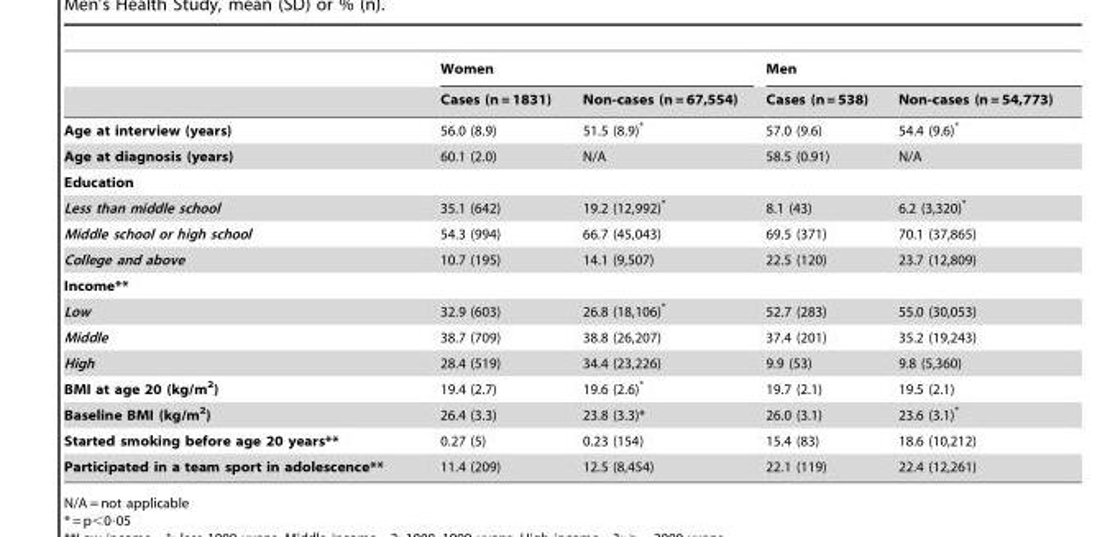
<table><thead><tr><td rowspan="2"></td><td colspan="2">Women</td><td colspan="2">Men</td></tr><tr><td>Cases (n = 1831)</td><td>Non-cases (n = 67,554)</td><td>Cases (n = 538)</td><td>Non-cases (n = 54,773)</td></tr></thead><tbody><tr><td>Age at interview (years)</td><td>56.0 (8.9)</td><td>51.5 (8.9)*</td><td>57.0 (9.6)</td><td>54.4 (9.6)*</td></tr><tr><td>Age at diagnosis (years)</td><td>60.1 (2.0)</td><td>N/A</td><td>58.5 (0.91)</td><td>N/A</td></tr><tr><td colspan="5">Education</td></tr><tr><td>Less than middle school</td><td>35.1 (642)</td><td>19.2 (12,992)*</td><td>8.1 (43)</td><td>6.2 (3,320)*</td></tr><tr><td>Middle school or high school</td><td>54.3 (994)</td><td>66.7 (45,043)</td><td>69.5 (371)</td><td>70.1 (37,865)</td></tr><tr><td>College and above</td><td>10.7 (195)</td><td>14.1 (9,507)</td><td>22.5 (120)</td><td>23.7 (12,809)</td></tr><tr><td colspan="5">Income**</td></tr><tr><td>Low</td><td>32.9 (603)</td><td>26.8 (18,106)*</td><td>52.7 (283)</td><td>55.0 (30,053)</td></tr><tr><td>Middle</td><td>38.7 (709)</td><td>38.8 (26,207)</td><td>37.4 (201)</td><td>35.2 (19,243)</td></tr><tr><td>High</td><td>28.4 (519)</td><td>34.4 (23,226)</td><td>9.9 (53)</td><td>9.8 (5,360)</td></tr><tr><td>BMI at age 20 (kg/m<sup>2</sup>)</td><td>19.4 (2.7)</td><td>19.6 (2.6)*</td><td>19.7 (2.1)</td><td>19.5 (2.1)</td></tr><tr><td>Baseline BMI (kg/m<sup>2</sup>)</td><td>26.4 (3.3)</td><td>23.8 (3.3)*</td><td>26.0 (3.1)</td><td>23.6 (3.1)*</td></tr><tr><td>Started smoking before age 20 years**</td><td>0.27 (5)</td><td>0.23 (154)</td><td>15.4 (83)</td><td>18.6 (10,212)</td></tr><tr><td>Participated in a team sport in adolescence**</td><td>11.4 (209)</td><td>12.5 (8,454)</td><td>22.1 (119)</td><td>22.4 (12,261)</td></tr></tbody></table>